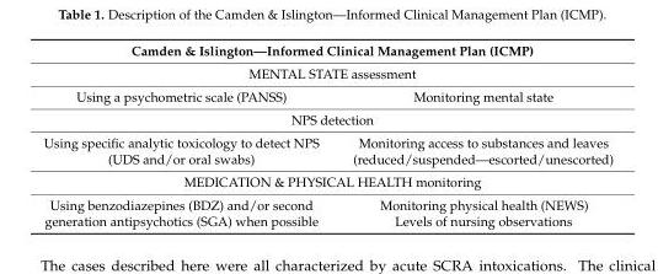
<table><thead><tr><td rowspan="2" colspan="2">Camden &amp; Islington—Informed Clinical Management Plan (ICMP) MENTAL STATE assessment</td></tr><tr></tr><tr><td>Using a psychometric scale (PANSS)</td><td>Monitoring mental state</td></tr></thead><tbody><tr><td colspan="2">NPS detection</td></tr><tr><td>Using specific analytic toxicology to detect NPS (UDS and/or oral swabs)</td><td>Monitoring access to substances and leaves (reduced/suspended—escorted/unescorted)</td></tr><tr><td colspan="2">MEDICATION &amp; PHYSICAL HEALTH monitoring</td></tr><tr><td>Using benzodiazepines (BDZ) and/or second generation antipsychotics (SGA) when possible</td><td>Monitoring physical health (NEWS) Levels of nursing observations</td></tr></tbody></table>